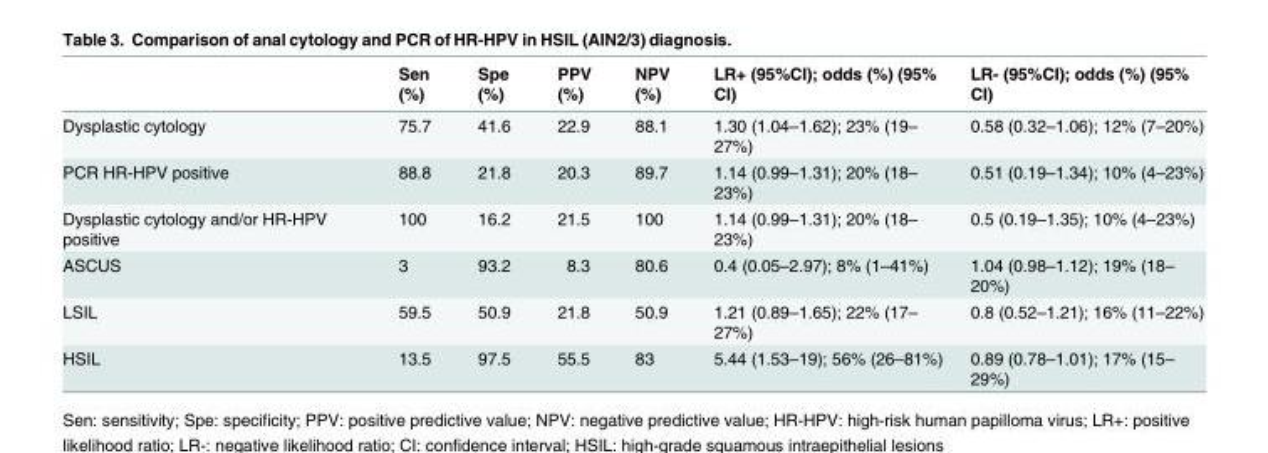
<table><thead><tr><td></td><td>Sen (%)</td><td>Spe (%)</td><td>PPV (%)</td><td>NPV (%)</td><td>LR+ (95%CI); odds (%) (95% CI)</td><td>LR- (95%CI); odds (%) (95% CI)</td></tr></thead><tbody><tr><td>Dysplastic cytology</td><td>75.7</td><td>41.6</td><td>22.9</td><td>88.1</td><td>1.30 (1.04–1.62); 23% (19– 27%)</td><td>0.58 (0.32–1.06); 12% (7–20%)</td></tr><tr><td>PCR HR-HPV positive</td><td>88.8</td><td>21.8</td><td>20.3</td><td>89.7</td><td>1.14 (0.99–1.31); 20% (18– 23%)</td><td>0.51 (0.19–1.34); 10% (4–23%)</td></tr><tr><td>Dysplastic cytology and/or HR-HPV positive</td><td>100</td><td>16.2</td><td>21.5</td><td>100</td><td>1.14 (0.99–1.31); 20% (18– 23%)</td><td>0.5 (0.19–1.35); 10% (4–23%)</td></tr><tr><td>ASCUS</td><td>3</td><td>93.2</td><td>8.3</td><td>80.6</td><td>0.4 (0.05–2.97); 8% (1–41%)</td><td>1.04 (0.98–1.12); 19% (18– 20%)</td></tr><tr><td>LSIL</td><td>59.5</td><td>50.9</td><td>21.8</td><td>50.9</td><td>1.21 (0.89–1.65); 22% (17– 27%)</td><td>0.8 (0.52–1.21); 16% (11–22%)</td></tr><tr><td>HSIL</td><td>13.5</td><td>97.5</td><td>55.5</td><td>83</td><td>5.44 (1.53–19); 56% (26–81%)</td><td>0.89 (0.78–1.01); 17% (15– 29%)</td></tr></tbody></table>